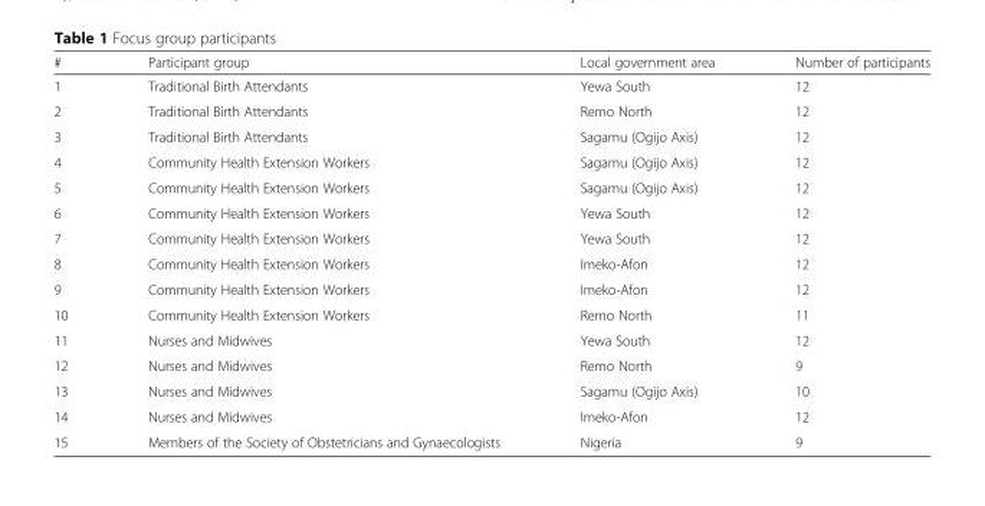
<table><thead><tr><td>#</td><td>Participant group</td><td>Local government area</td><td>Number of participants</td></tr></thead><tbody><tr><td>1</td><td>Traditional Birth Attendants</td><td>Yewa South</td><td>12</td></tr><tr><td>2</td><td>Traditional Birth Attendants</td><td>Remo North</td><td>12</td></tr><tr><td>3</td><td>Traditional Birth Attendants</td><td>Sagamu (Ogijo Axis)</td><td>12</td></tr><tr><td>4</td><td>Community Health Extension Workers</td><td>Sagamu (Ogijo Axis)</td><td>12</td></tr><tr><td>5</td><td>Community Health Extension Workers</td><td>Sagamu (Ogijo Axis)</td><td>12</td></tr><tr><td>6</td><td>Community Health Extension Workers</td><td>Yewa South</td><td>12</td></tr><tr><td>7</td><td>Community Health Extension Workers</td><td>Yewa South</td><td>12</td></tr><tr><td>8</td><td>Community Health Extension Workers</td><td>Imeko-Afon</td><td>12</td></tr><tr><td>9</td><td>Community Health Extension Workers</td><td>Imeko-Afon</td><td>12</td></tr><tr><td>10</td><td>Community Health Extension Workers</td><td>Remo North</td><td>11</td></tr><tr><td>11</td><td>Nurses and Midwives</td><td>Yewa South</td><td>12</td></tr><tr><td>12</td><td>Nurses and Midwives</td><td>Remo North</td><td>9</td></tr><tr><td>13</td><td>Nurses and Midwives</td><td>Sagamu (Ogijo Axis)</td><td>10</td></tr><tr><td>14</td><td>Nurses and Midwives</td><td>Imeko-Afon</td><td>12</td></tr><tr><td>15</td><td>Members of the Society of Obstetricians and Gynaecologists</td><td>Nigeria</td><td>9</td></tr></tbody></table>